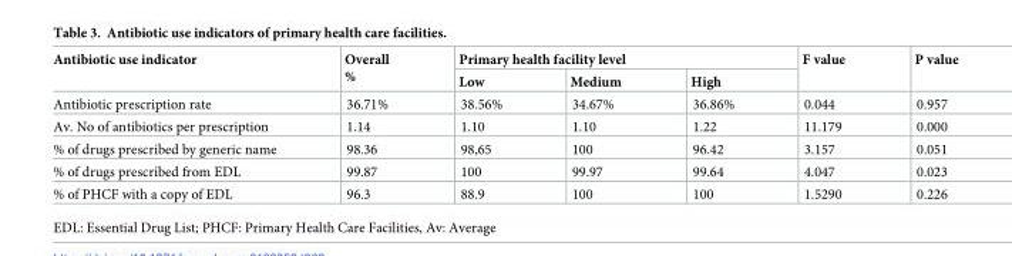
<table><thead><tr><td rowspan="2">Antibiotic use indicator</td><td rowspan="2">Overall %</td><td colspan="3">Primary health facility level</td><td rowspan="2">F value</td><td rowspan="2">P value</td></tr><tr><td>Low</td><td>Medium</td><td>High</td></tr></thead><tbody><tr><td>Antibiotic prescription rate</td><td>36.71%</td><td>38.56%</td><td>34.67%</td><td>36.86%</td><td>0.044</td><td>0.957</td></tr><tr><td>Av. No of antibiotics per prescription</td><td>1.14</td><td>1.10</td><td>1.10</td><td>1.22</td><td>11.179</td><td>0.000</td></tr><tr><td>% of drugs prescribed by generic name</td><td>98.36</td><td>98,65</td><td>100</td><td>96.42</td><td>3.157</td><td>0.051</td></tr><tr><td>% of drugs prescribed from EDL</td><td>99.87</td><td>100</td><td>99.97</td><td>99.64</td><td>4.047</td><td>0.023</td></tr><tr><td>% of PHCF with a copy of EDL</td><td>96.3</td><td>88.9</td><td>100</td><td>100</td><td>1.5290</td><td>0.226</td></tr></tbody></table>